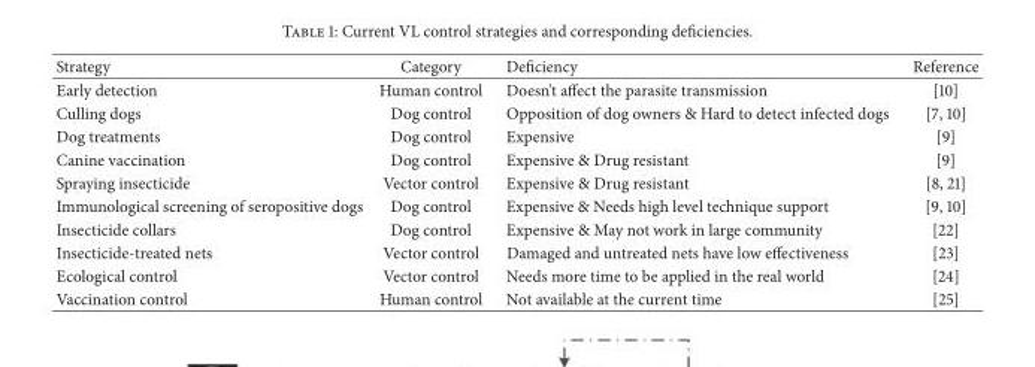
<table><thead><tr><td>Strategy</td><td>Category</td><td>Deficiency</td><td>Reference</td></tr></thead><tbody><tr><td>Early detection</td><td>Human control</td><td>Doesn’t affect the parasite transmission</td><td>[10]</td></tr><tr><td>Culling dogs</td><td>Dog control</td><td>Opposition of dog owners &amp; Hard to detect infected dogs</td><td>[7, 10]</td></tr><tr><td>Dog treatments</td><td>Dog control</td><td>Expensive</td><td>[9]</td></tr><tr><td>Canine vaccination</td><td>Dog control</td><td>Expensive &amp; Drug resistant</td><td>[9]</td></tr><tr><td>Spraying insecticide</td><td>Vector control</td><td>Expensive &amp; Drug resistant</td><td>[8, 21]</td></tr><tr><td>Immunological screening of seropositive dogs</td><td>Dog control</td><td>Expensive &amp; Needs high level technique support</td><td>[9, 10]</td></tr><tr><td>Insecticide collars</td><td>Dog control</td><td>Expensive &amp; May not work in large community</td><td>[22]</td></tr><tr><td>Insecticide-treated nets</td><td>Vector control</td><td>Damaged and untreated nets have low effectiveness</td><td>[23]</td></tr><tr><td>Ecological control</td><td>Vector control</td><td>Needs more time to be applied in the real world</td><td>[24]</td></tr><tr><td>Vaccination control</td><td>Human control</td><td>Not available at the current time</td><td>[25]</td></tr></tbody></table>